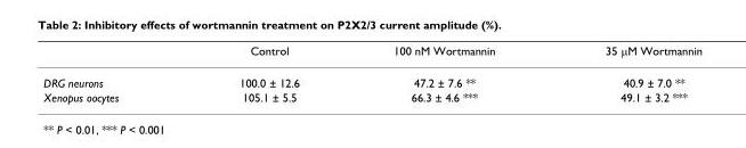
<table><thead><tr><td></td><td>Control</td><td>100 nM Wortmannin</td><td>35 μM Wortmannin</td></tr></thead><tbody><tr><td>DRG neurons</td><td>100.0 ± 12.6</td><td>47.2 ± 7.6 **</td><td>40.9 ± 7.0 **</td></tr><tr><td>Xenopus oocytes</td><td>105.1 ± 5.5</td><td>66.3 ± 4.6 ***</td><td>49.1 ± 3.2 ***</td></tr></tbody></table>